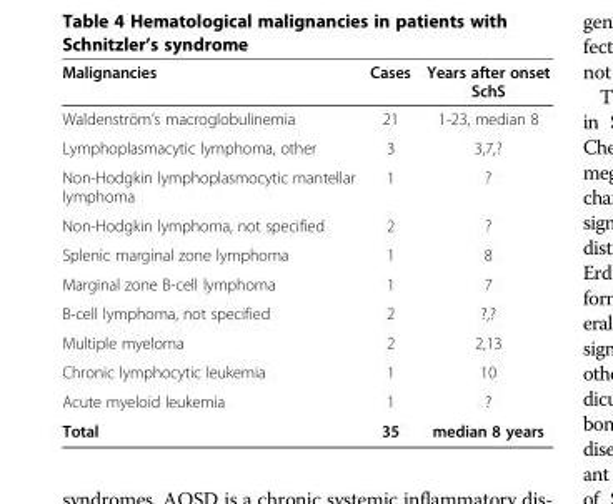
<table><thead><tr><td>Malignancies</td><td>Cases</td><td>Years after onset SchS</td></tr></thead><tbody><tr><td>Waldenström’s macroglobulinemia</td><td>21</td><td>1-23, median 8</td></tr><tr><td>Lymphoplasmacytic lymphoma, other</td><td>3</td><td>3,7,?</td></tr><tr><td>Non-Hodgkin lymphoplasmocytic mantellar lymphoma</td><td>1</td><td>?</td></tr><tr><td>Non-Hodgkin lymphoma, not specified</td><td>2</td><td>?</td></tr><tr><td>Splenic marginal zone lymphoma</td><td>1</td><td>8</td></tr><tr><td>Marginal zone B-cell lymphoma</td><td>1</td><td>7</td></tr><tr><td>B-cell lymphoma, not specified</td><td>2</td><td>?,?</td></tr><tr><td>Multiple myeloma</td><td>2</td><td>2,13</td></tr><tr><td>Chronic lymphocytic leukemia</td><td>1</td><td>10</td></tr><tr><td>Acute myeloid leukemia</td><td>1</td><td>?</td></tr><tr><td>Total</td><td>35</td><td>median 8 years</td></tr></tbody></table>